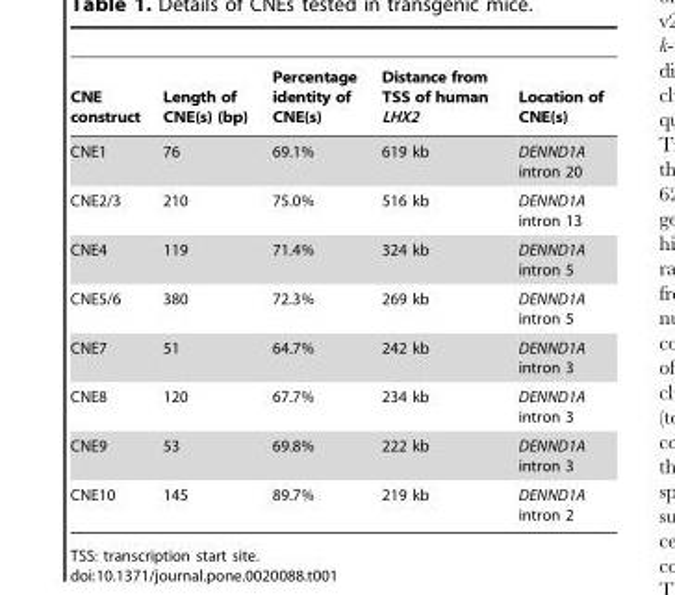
<table><thead><tr><td>CNE construct</td><td>Length of CNE(s) (bp)</td><td>Percentage identity of CNE(s)</td><td>Distance from TSS of human LHX2</td><td>Location of CNE(s)</td></tr></thead><tbody><tr><td>CNE1</td><td>76</td><td>69.1%</td><td>619 kb</td><td>DENND1A intron 20</td></tr><tr><td>CNE2/3</td><td>210</td><td>75.0%</td><td>516 kb</td><td>DENND1A intron 13</td></tr><tr><td>CNE4</td><td>119</td><td>71.4%</td><td>324 kb</td><td>DENND1A intron 5</td></tr><tr><td>CNE5/6</td><td>380</td><td>72.3%</td><td>269 kb</td><td>DENND1A intron 5</td></tr><tr><td>CNE7</td><td>51</td><td>64.7%</td><td>242 kb</td><td>DENND1A intron 3</td></tr><tr><td>CNE8</td><td>120</td><td>67.7%</td><td>234 kb</td><td>DENND1A intron 3</td></tr><tr><td>CNE9</td><td>53</td><td>69.8%</td><td>222 kb</td><td>DENND1A intron 3</td></tr><tr><td>CNE10</td><td>145</td><td>89.7%</td><td>219 kb</td><td>DENND1A intron 2</td></tr></tbody></table>